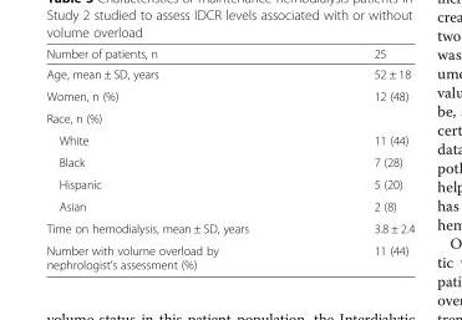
<table><thead><tr><td>Number of patients, n</td><td>25</td></tr></thead><tbody><tr><td>Age, mean ± SD, years</td><td>52 ± 18</td></tr><tr><td>Women, n (%)</td><td>12 (48)</td></tr><tr><td colspan="2">Race, n (%)</td></tr><tr><td>White</td><td>11 (44)</td></tr><tr><td>Black</td><td>7 (28)</td></tr><tr><td>Hispanic</td><td>5 (20)</td></tr><tr><td>Asian</td><td>2 (8)</td></tr><tr><td>Time on hemodialysis, mean ± SD, years</td><td>3.8 ± 2.4</td></tr><tr><td>Number with volume overload by nephrologist’s assessment (%)</td><td>11 (44)</td></tr></tbody></table>